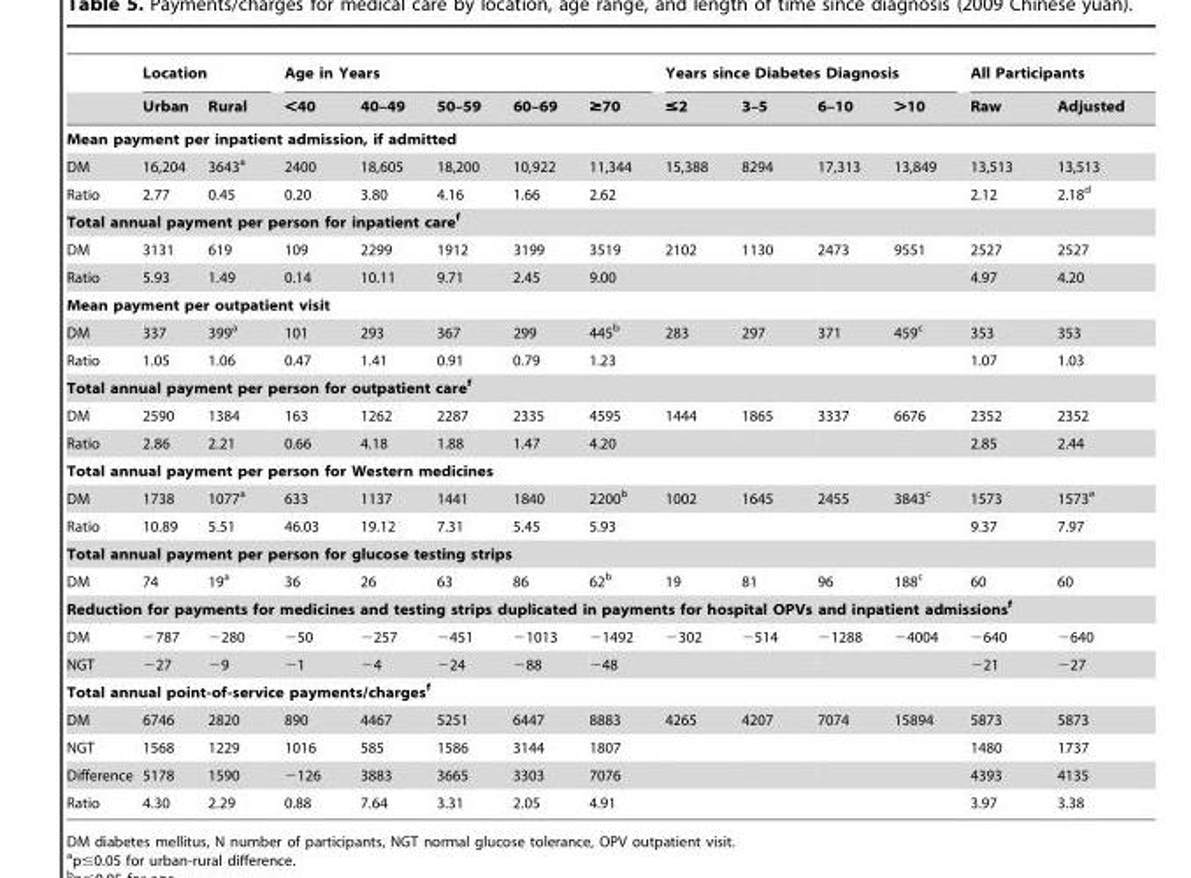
<table><thead><tr><td rowspan="2"></td><td colspan="2">Location</td><td colspan="5">Age in Years</td><td colspan="4">Years since Diabetes Diagnosis</td><td colspan="2">All Participants</td></tr><tr><td>Urban</td><td>Rural</td><td>&lt;40</td><td>40–49</td><td>50–59</td><td>60–69</td><td>≥70</td><td>≤2</td><td>3–5</td><td>6–10</td><td>&gt;10</td><td>Raw</td><td>Adjusted</td></tr></thead><tbody><tr><td colspan="14">Mean payment per inpatient admission, if admitted</td></tr><tr><td>DM</td><td>16,204</td><td>3643<sup>a</sup></td><td>2400</td><td>18,605</td><td>18,200</td><td>10,922</td><td>11,344</td><td>15,388</td><td>8294</td><td>17,313</td><td>13,849</td><td>13,513</td><td>13,513</td></tr><tr><td>Ratio</td><td>2.77</td><td>0.45</td><td>0.20</td><td>3.80</td><td>4.16</td><td>1.66</td><td>2.62</td><td></td><td></td><td></td><td></td><td>2.12</td><td>2.18<sup>d</sup></td></tr><tr><td colspan="14">Total annual payment per person for inpatient caref</td></tr><tr><td>DM</td><td>3131</td><td>619</td><td>109</td><td>2299</td><td>1912</td><td>3199</td><td>3519</td><td>2102</td><td>1130</td><td>2473</td><td>9551</td><td>2527</td><td>2527</td></tr><tr><td>Ratio</td><td>5.93</td><td>1.49</td><td>0.14</td><td>10.11</td><td>9.71</td><td>2.45</td><td>9.00</td><td></td><td></td><td></td><td></td><td>4.97</td><td>4.20</td></tr><tr><td colspan="14">Mean payment per outpatient visit</td></tr><tr><td>DM</td><td>337</td><td>399<sup>a</sup></td><td>101</td><td>293</td><td>367</td><td>299</td><td>445<sup>b</sup></td><td>283</td><td>297</td><td>371</td><td>459<sup>c</sup></td><td>353</td><td>353</td></tr><tr><td>Ratio</td><td>1.05</td><td>1.06</td><td>0.47</td><td>1.41</td><td>0.91</td><td>0.79</td><td>1.23</td><td></td><td></td><td></td><td></td><td>1.07</td><td>1.03</td></tr><tr><td colspan="14">Total annual payment per person for outpatient caref</td></tr><tr><td>DM</td><td>2590</td><td>1384</td><td>163</td><td>1262</td><td>2287</td><td>2335</td><td>4595</td><td>1444</td><td>1865</td><td>3337</td><td>6676</td><td>2352</td><td>2352</td></tr><tr><td>Ratio</td><td>2.86</td><td>2.21</td><td>0.66</td><td>4.18</td><td>1.88</td><td>1.47</td><td>4.20</td><td></td><td></td><td></td><td></td><td>2.85</td><td>2.44</td></tr><tr><td colspan="14">Total annual payment per person for Western medicines</td></tr><tr><td>DM</td><td>1738</td><td>1077<sup>a</sup></td><td>633</td><td>1137</td><td>1441</td><td>1840</td><td>2200<sup>b</sup></td><td>1002</td><td>1645</td><td>2455</td><td>3843<sup>c</sup></td><td>1573</td><td>1573<sup>e</sup></td></tr><tr><td>Ratio</td><td>10.89</td><td>5.51</td><td>46.03</td><td>19.12</td><td>7.31</td><td>5.45</td><td>5.93</td><td></td><td></td><td></td><td></td><td>9.37</td><td>7.97</td></tr><tr><td colspan="14">Total annual payment per person for glucose testing strips</td></tr><tr><td>DM</td><td>74</td><td>19<sup>a</sup></td><td>36</td><td>26</td><td>63</td><td>86</td><td>62<sup>b</sup></td><td>19</td><td>81</td><td>96</td><td>188<sup>c</sup></td><td>60</td><td>60</td></tr><tr><td colspan="14">Reduction for payments for medicines and testing strips duplicated in payments for hospital OPVs and inpatient admissionsf</td></tr><tr><td>DM</td><td>−787</td><td>−280</td><td>−50</td><td>−257</td><td>−451</td><td>−1013</td><td>−1492</td><td>−302</td><td>−514</td><td>−1288</td><td>−4004</td><td>−640</td><td>−640</td></tr><tr><td>NGT</td><td>−27</td><td>−9</td><td>−1</td><td>−4</td><td>−24</td><td>−88</td><td>−48</td><td></td><td></td><td></td><td></td><td>−21</td><td>−27</td></tr><tr><td colspan="14">Total annual point-of-service payments/chargesf</td></tr><tr><td>DM</td><td>6746</td><td>2820</td><td>890</td><td>4467</td><td>5251</td><td>6447</td><td>8883</td><td>4265</td><td>4207</td><td>7074</td><td>15894</td><td>5873</td><td>5873</td></tr><tr><td>NGT</td><td>1568</td><td>1229</td><td>1016</td><td>585</td><td>1586</td><td>3144</td><td>1807</td><td></td><td></td><td></td><td></td><td>1480</td><td>1737</td></tr><tr><td>Difference</td><td>5178</td><td>1590</td><td>−126</td><td>3883</td><td>3665</td><td>3303</td><td>7076</td><td></td><td></td><td></td><td></td><td>4393</td><td>4135</td></tr><tr><td>Ratio</td><td>4.30</td><td>2.29</td><td>0.88</td><td>7.64</td><td>3.31</td><td>2.05</td><td>4.91</td><td></td><td></td><td></td><td></td><td>3.97</td><td>3.38</td></tr></tbody></table>